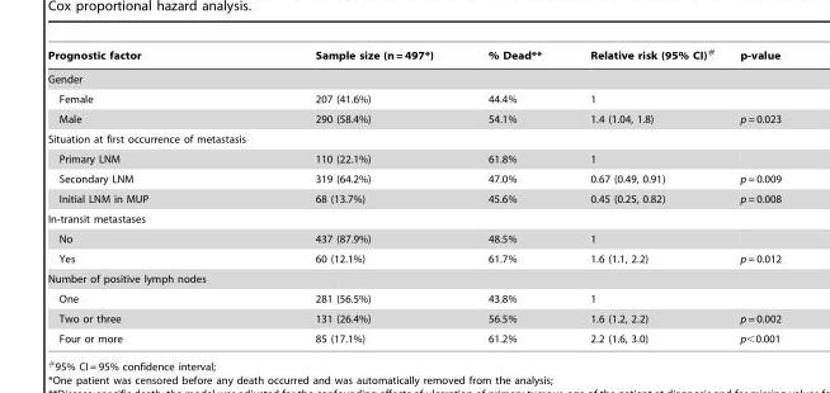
<table><thead><tr><td>Prognostic factor</td><td>Sample size (n = 497*)</td><td>% Dead**</td><td>Relative risk (95% CI)#</td><td>p-value</td></tr></thead><tbody><tr><td colspan="5">Gender</td></tr><tr><td>Female</td><td>207 (41.6%)</td><td>44.4%</td><td>1</td><td></td></tr><tr><td>Male</td><td>290 (58.4%)</td><td>54.1%</td><td>1.4 (1.04, 1.8)</td><td>p = 0.023</td></tr><tr><td colspan="5">Situation at first occurrence of metastasis</td></tr><tr><td>Primary LNM</td><td>110 (22.1%)</td><td>61.8%</td><td>1</td><td></td></tr><tr><td>Secondary LNM</td><td>319 (64.2%)</td><td>47.0%</td><td>0.67 (0.49, 0.91)</td><td>p = 0.009</td></tr><tr><td>Initial LNM in MUP</td><td>68 (13.7%)</td><td>45.6%</td><td>0.45 (0.25, 0.82)</td><td>p = 0.008</td></tr><tr><td colspan="5">In-transit metastases</td></tr><tr><td>No</td><td>437 (87.9%)</td><td>48.5%</td><td>1</td><td></td></tr><tr><td>Yes</td><td>60 (12.1%)</td><td>61.7%</td><td>1.6 (1.1, 2.2)</td><td>p = 0.012</td></tr><tr><td colspan="5">Number of positive lymph nodes</td></tr><tr><td>One</td><td>281 (56.5%)</td><td>43.8%</td><td>1</td><td></td></tr><tr><td>Two or three</td><td>131 (26.4%)</td><td>56.5%</td><td>1.6 (1.2, 2.2)</td><td>p = 0.002</td></tr><tr><td>Four or more</td><td>85 (17.1%)</td><td>61.2%</td><td>2.2 (1.6, 3.0)</td><td>p&lt;0.001</td></tr></tbody></table>